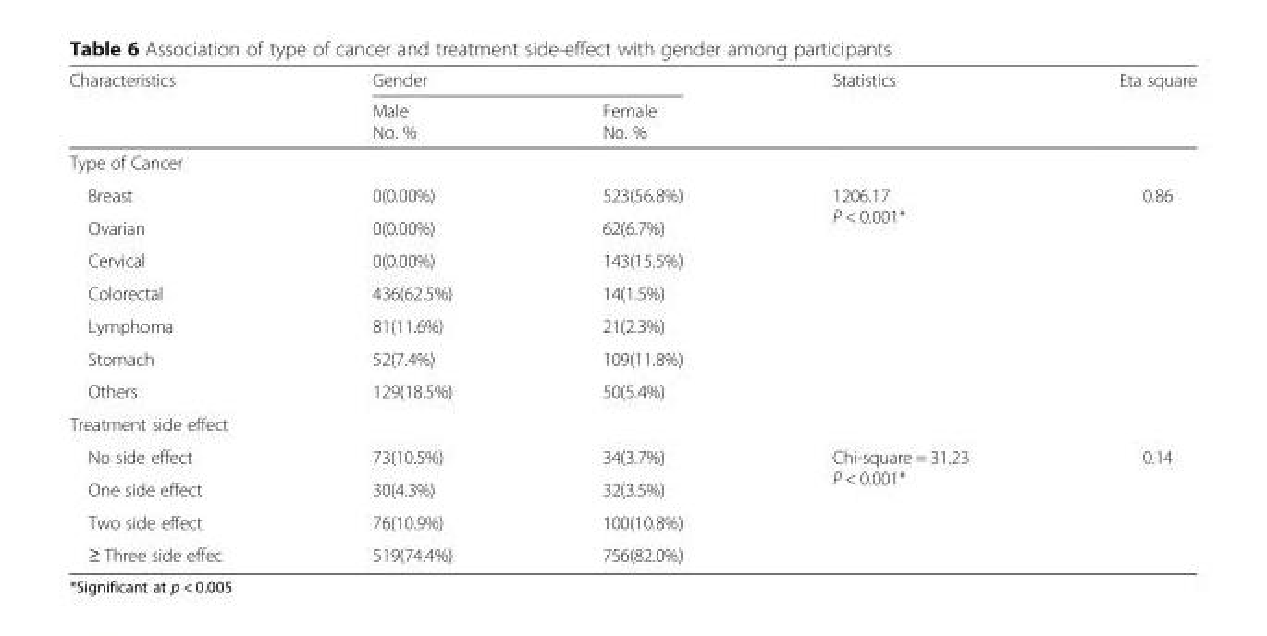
<table><thead><tr><td rowspan="2">Characteristics</td><td colspan="2">Gender</td><td rowspan="2">Statistics</td><td rowspan="2">Eta square</td></tr><tr><td>Male No. %</td><td>Female No. %</td></tr></thead><tbody><tr><td colspan="5">Type of Cancer</td></tr><tr><td>Breast</td><td>0(0.00%)</td><td>523(56.8%)</td><td rowspan="7">1206.17 P &lt; 0.001*</td><td rowspan="7">0.86</td></tr><tr><td>Ovarian</td><td>0(0.00%)</td><td>62(6.7%)</td></tr><tr><td>Cervical</td><td>0(0.00%)</td><td>143(15.5%)</td></tr><tr><td>Colorectal</td><td>436(62.5%)</td><td>14(1.5%)</td></tr><tr><td>Lymphoma</td><td>81(11.6%)</td><td>21(2.3%)</td></tr><tr><td>Stomach</td><td>52(7.4%)</td><td>109(11.8%)</td></tr><tr><td>Others</td><td>129(18.5%)</td><td>50(5.4%)</td></tr><tr><td colspan="5">Treatment side effect</td></tr><tr><td>No side effect</td><td>73(10.5%)</td><td>34(3.7%)</td><td rowspan="4">Chi-square = 31.23 P &lt; 0.001*</td><td rowspan="4">0.14</td></tr><tr><td>One side effect</td><td>30(4.3%)</td><td>32(3.5%)</td></tr><tr><td>Two side effect</td><td>76(10.9%)</td><td>100(10.8%)</td></tr><tr><td>≥ Three side effec</td><td>519(74.4%)</td><td>756(82.0%)</td></tr></tbody></table>